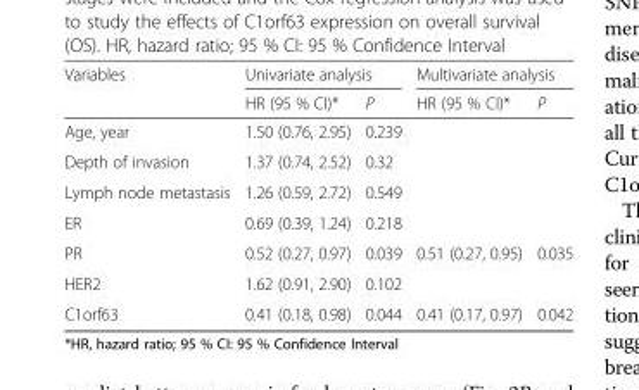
<table><thead><tr><td rowspan="2">Variables</td><td colspan="2">Univariate analysis</td><td colspan="2">Multivariate analysis</td></tr><tr><td>HR (95 % CI)*</td><td>P</td><td>HR (95 % CI)*</td><td>P</td></tr></thead><tbody><tr><td>Age, year</td><td>1.50 (0.76, 2.95)</td><td>0.239</td><td></td><td></td></tr><tr><td>Depth of invasion</td><td>1.37 (0.74, 2.52)</td><td>0.32</td><td></td><td></td></tr><tr><td>Lymph node metastasis</td><td>1.26 (0.59, 2.72)</td><td>0.549</td><td></td><td></td></tr><tr><td>ER</td><td>0.69 (0.39, 1.24)</td><td>0.218</td><td></td><td></td></tr><tr><td>PR</td><td>0.52 (0.27, 0.97)</td><td>0.039</td><td>0.51 (0.27, 0.95)</td><td>0.035</td></tr><tr><td>HER2</td><td>1.62 (0.91, 2.90)</td><td>0.102</td><td></td><td></td></tr><tr><td>C1orf63</td><td>0.41 (0.18, 0.98)</td><td>0.044</td><td>0.41 (0.17, 0.97)</td><td>0.042</td></tr></tbody></table>